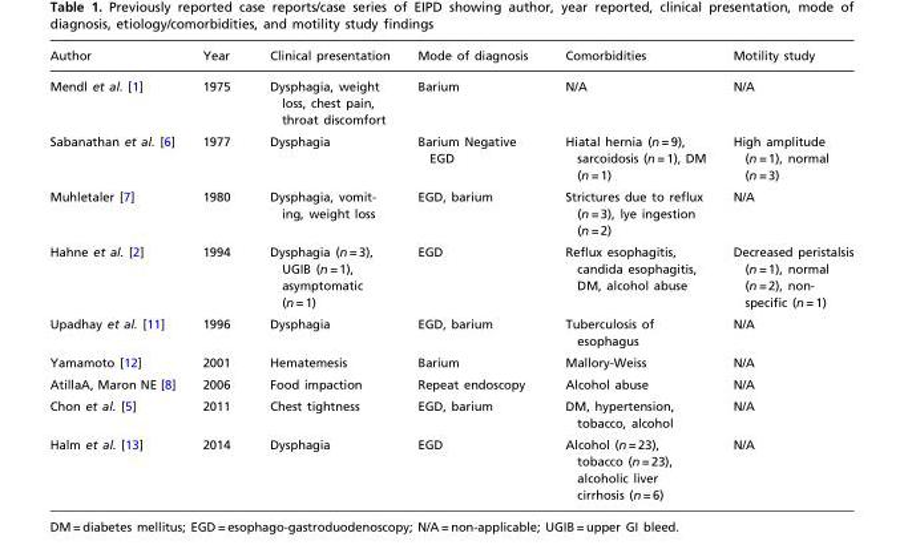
<table><thead><tr><td>Author</td><td>Year</td><td>Clinical presentation</td><td>Mode of diagnosis</td><td>Comorbidities</td><td>Motility study</td></tr></thead><tbody><tr><td>Mendl et al. [1]</td><td>1975</td><td>Dysphagia, weight loss, chest pain, throat discomfort</td><td>Barium</td><td>N/A</td><td>N/A</td></tr><tr><td>Sabanathan et al. [6]</td><td>1977</td><td>Dysphagia</td><td>Barium Negative EGD</td><td>Hiatal hernia (n = 9), sarcoidosis (n = 1), DM (n = 1)</td><td>High amplitude (n = 1), normal (n = 3)</td></tr><tr><td>Muhletaler [7]</td><td>1980</td><td>Dysphagia, vomit- ing, weight loss</td><td>EGD, barium</td><td>Strictures due to reflux (n = 3), lye ingestion (n = 2)</td><td>N/A</td></tr><tr><td>Hahne et al. [2]</td><td>1994</td><td>Dysphagia (n = 3), UGIB (n = 1), asymptomatic (n = 1)</td><td>EGD</td><td>Reflux esophagitis, candida esophagitis, DM, alcohol abuse</td><td>Decreased peristalsis (n = 1), normal (n = 2), non- specific (n = 1)</td></tr><tr><td>Upadhay et al. [11]</td><td>1996</td><td>Dysphagia</td><td>EGD, barium</td><td>Tuberculosis of esophagus</td><td>N/A</td></tr><tr><td>Yamamoto [12]</td><td>2001</td><td>Hematemesis</td><td>Barium</td><td>Mallory-Weiss</td><td>N/A</td></tr><tr><td>AtillaA, Maron NE [8]</td><td>2006</td><td>Food impaction</td><td>Repeat endoscopy</td><td>Alcohol abuse</td><td>N/A</td></tr><tr><td>Chon et al. [5]</td><td>2011</td><td>Chest tightness</td><td>EGD, barium</td><td>DM, hypertension, tobacco, alcohol</td><td>N/A</td></tr><tr><td>Halm et al. [13]</td><td>2014</td><td>Dysphagia</td><td>EGD</td><td>Alcohol (n = 23), tobacco (n = 23), alcoholic liver cirrhosis (n = 6)</td><td>N/A</td></tr></tbody></table>